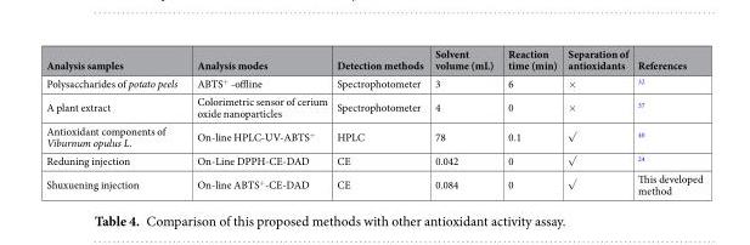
<table><thead><tr><td>Analysis samples</td><td>Analysis modes</td><td>Detection methods</td><td>Solvent volume (mL)</td><td>Reaction time (min)</td><td>Separation of antioxidants</td><td>References</td></tr></thead><tbody><tr><td>Polysaccharides of potato peels</td><td>ABTS<sup>+</sup> -offline</td><td>Spectrophotometer</td><td>3</td><td>6</td><td>×</td><td><sup>32</sup></td></tr><tr><td>A plant extract</td><td>Colorimetric sensor of cerium oxide nanoparticles</td><td>Spectrophotometer</td><td>4</td><td>0</td><td>×</td><td><sup>37</sup></td></tr><tr><td>Antioxidant components of Viburnum opulus L.</td><td>On-line HPLC-UV-ABTS<sup>+</sup></td><td>HPLC</td><td>78</td><td>0.1</td><td>√</td><td><sup>40</sup></td></tr><tr><td>Reduning injection</td><td>On-Line DPPH-CE-DAD</td><td>CE</td><td>0.042</td><td>0</td><td>√</td><td><sup>24</sup></td></tr><tr><td>Shuxuening injection</td><td>On-line ABTS<sup>+</sup>-CE-DAD</td><td>CE</td><td>0.084</td><td>0</td><td>√</td><td>This developed method</td></tr></tbody></table>